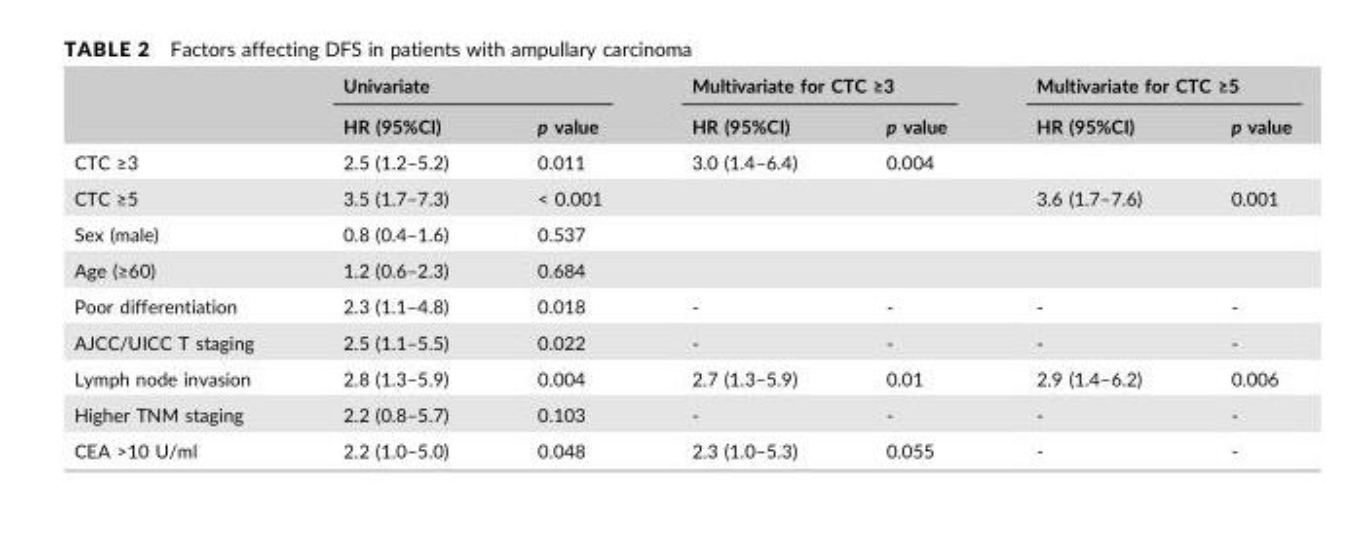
<table><thead><tr><td rowspan="2"></td><td colspan="2">Univariate</td><td colspan="2">Multivariate for CTC ≥3</td><td colspan="2">Multivariate for CTC ≥5</td></tr><tr><td>HR (95%CI)</td><td>p value</td><td>HR (95%CI)</td><td>p value</td><td>HR (95%CI)</td><td>p value</td></tr></thead><tbody><tr><td>CTC ≥3</td><td>2.5 (1.2–5.2)</td><td>0.011</td><td>3.0 (1.4–6.4)</td><td>0.004</td><td></td><td></td></tr><tr><td>CTC ≥5</td><td>3.5 (1.7–7.3)</td><td>&lt; 0.001</td><td></td><td></td><td>3.6 (1.7–7.6)</td><td>0.001</td></tr><tr><td>Sex (male)</td><td>0.8 (0.4–1.6)</td><td>0.537</td><td></td><td></td><td></td><td></td></tr><tr><td>Age (≥60)</td><td>1.2 (0.6–2.3)</td><td>0.684</td><td></td><td></td><td></td><td></td></tr><tr><td>Poor differentiation</td><td>2.3 (1.1–4.8)</td><td>0.018</td><td>-</td><td>-</td><td>-</td><td>-</td></tr><tr><td>AJCC/UICC T staging</td><td>2.5 (1.1–5.5)</td><td>0.022</td><td>-</td><td>-</td><td>-</td><td>-</td></tr><tr><td>Lymph node invasion</td><td>2.8 (1.3–5.9)</td><td>0.004</td><td>2.7 (1.3–5.9)</td><td>0.01</td><td>2.9 (1.4–6.2)</td><td>0.006</td></tr><tr><td>Higher TNM staging</td><td>2.2 (0.8–5.7)</td><td>0.103</td><td>-</td><td>-</td><td>-</td><td>-</td></tr><tr><td>CEA &gt;10 U/ml</td><td>2.2 (1.0–5.0)</td><td>0.048</td><td>2.3 (1.0–5.3)</td><td>0.055</td><td>-</td><td>-</td></tr></tbody></table>